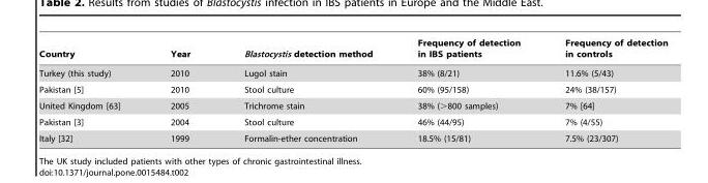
<table><thead><tr><td>Country</td><td>Year</td><td>Blastocystis detection method</td><td>Frequency of detection in IBS patients</td><td>Frequency of detection in controls</td></tr></thead><tbody><tr><td>Turkey (this study)</td><td>2010</td><td>Lugol stain</td><td>38% (8/21)</td><td>11.6% (5/43)</td></tr><tr><td>Pakistan [5]</td><td>2010</td><td>Stool culture</td><td>60% (95/158)</td><td>24% (38/157)</td></tr><tr><td>United Kingdom [63]</td><td>2005</td><td>Trichrome stain</td><td>38% (&gt;800 samples)</td><td>7% [64]</td></tr><tr><td>Pakistan [3]</td><td>2004</td><td>Stool culture</td><td>46% (44/95)</td><td>7% (4/55)</td></tr><tr><td>Italy [32]</td><td>1999</td><td>Formalin-ether concentration</td><td>18.5% (15/81)</td><td>7.5% (23/307)</td></tr></tbody></table>